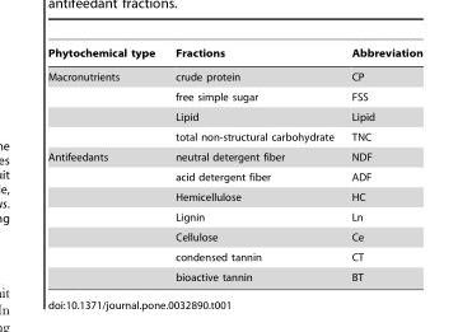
<table><thead><tr><td>Phytochemical type</td><td>Fractions</td><td>Abbreviation</td></tr></thead><tbody><tr><td rowspan="4">Macronutrients</td><td>crude protein</td><td>CP</td></tr><tr><td>free simple sugar</td><td>FSS</td></tr><tr><td>Lipid</td><td>Lipid</td></tr><tr><td>total non-structural carbohydrate</td><td>TNC</td></tr><tr><td rowspan="7">Antifeedants</td><td>neutral detergent fiber</td><td>NDF</td></tr><tr><td>acid detergent fiber</td><td>ADF</td></tr><tr><td>Hemicellulose</td><td>HC</td></tr><tr><td>Lignin</td><td>Ln</td></tr><tr><td>Cellulose</td><td>Ce</td></tr><tr><td>condensed tannin</td><td>CT</td></tr><tr><td>bioactive tannin</td><td>BT</td></tr></tbody></table>